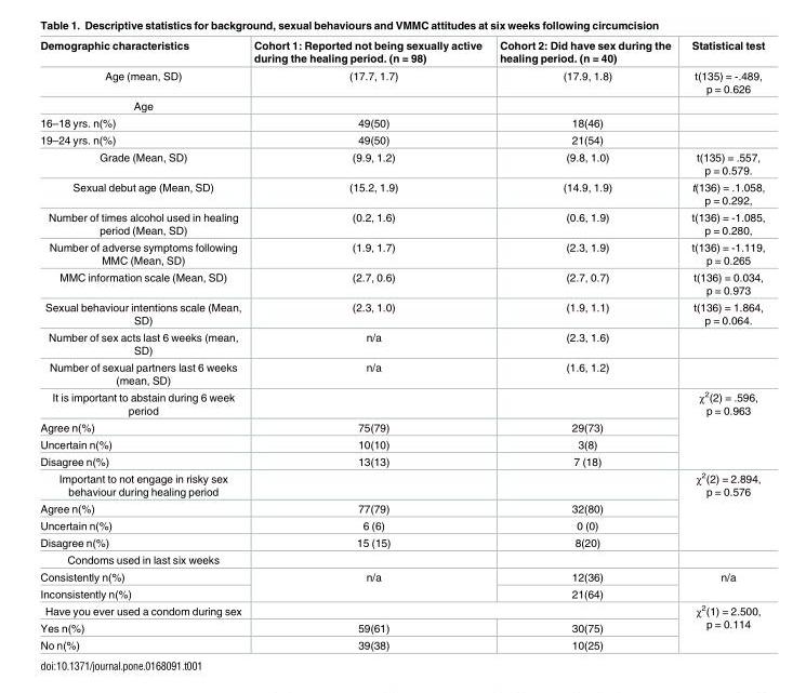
<table><thead><tr><td>Demographic characteristics</td><td>Cohort 1: Reported not being sexually active during the healing period. (n = 98)</td><td>Cohort 2: Did have sex during the healing period. (n = 40)</td><td>Statistical test</td></tr></thead><tbody><tr><td>Age (mean, SD)</td><td>(17.7, 1.7)</td><td>(17.9, 1.8)</td><td>t(135) = -.489, p = 0.626</td></tr><tr><td colspan="4">Age</td></tr><tr><td>16–18 yrs. n(%)</td><td>49(50)</td><td>18(46)</td><td></td></tr><tr><td>19–24 yrs. n(%)</td><td>49(50)</td><td>21(54)</td><td></td></tr><tr><td>Grade (Mean, SD)</td><td>(9.9, 1.2)</td><td>(9.8, 1.0)</td><td>t(135) = .557, p = 0.579.</td></tr><tr><td>Sexual debut age (Mean, SD)</td><td>(15.2, 1.9)</td><td>(14.9, 1.9)</td><td>t(136) = .1.058, p = 0.292,</td></tr><tr><td>Number of times alcohol used in healing period (Mean, SD)</td><td>(0.2, 1.6)</td><td>(0.6, 1.9)</td><td>t(136) = -1.085, p = 0.280,</td></tr><tr><td>Number of adverse symptoms following MMC (Mean, SD)</td><td>(1.9, 1.7)</td><td>(2.3, 1.9)</td><td>t(136) = -1.119, p = 0.265</td></tr><tr><td>MMC information scale (Mean, SD)</td><td>(2.7, 0.6)</td><td>(2.7, 0.7)</td><td>t(136) = 0.034, p = 0.973</td></tr><tr><td>Sexual behaviour intentions scale (Mean, SD)</td><td>(2.3, 1.0)</td><td>(1.9, 1.1)</td><td>t(136) = 1.864, p = 0.064.</td></tr><tr><td>Number of sex acts last 6 weeks (mean, SD)</td><td>n/a</td><td>(2.3, 1.6)</td><td></td></tr><tr><td>Number of sexual partners last 6 weeks (mean, SD)</td><td>n/a</td><td>(1.6, 1.2)</td><td></td></tr><tr><td colspan="3">It is important to abstain during 6 week period</td><td rowspan="4">χ<sup>2</sup>(2) = .596, p = 0.963</td></tr><tr><td>Agree n(%)</td><td>75(79)</td><td>29(73)</td></tr><tr><td>Uncertain n(%)</td><td>10(10)</td><td>3(8)</td></tr><tr><td>Disagree n(%)</td><td>13(13)</td><td>7 (18)</td></tr><tr><td colspan="3">Important to not engage in risky sex behaviour during healing period</td><td rowspan="4">χ<sup>2</sup>(2) = 2.894, p = 0.576</td></tr><tr><td>Agree n(%)</td><td>77(79)</td><td>32(80)</td></tr><tr><td>Uncertain n(%)</td><td>6 (6)</td><td>0 (0)</td></tr><tr><td>Disagree n(%)</td><td>15 (15)</td><td>8(20)</td></tr><tr><td colspan="4">Condoms used in last six weeks</td></tr><tr><td>Consistently n(%)</td><td rowspan="2">n/a</td><td>12(36)</td><td rowspan="2">n/a</td></tr><tr><td>Inconsistently n(%)</td><td>21(64)</td></tr><tr><td colspan="3">Have you ever used a condom during sex</td><td rowspan="3">χ<sup>2</sup>(1) = 2.500, p = 0.114</td></tr><tr><td>Yes n(%)</td><td>59(61)</td><td>30(75)</td></tr><tr><td>No n(%)</td><td>39(38)</td><td>10(25)</td></tr></tbody></table>